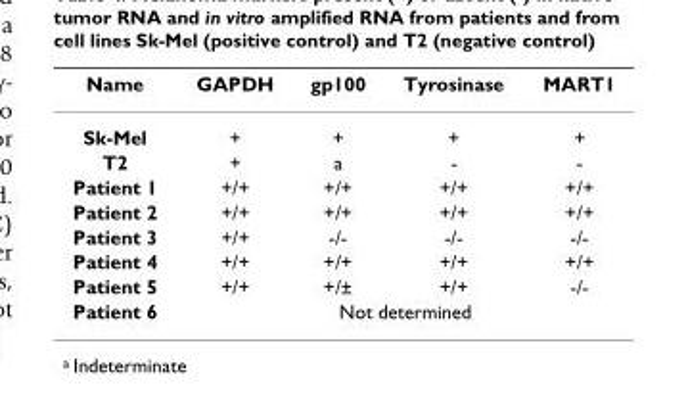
<table><thead><tr><td>Name</td><td>GAPDH</td><td>gp100</td><td>Tyrosinase</td><td>MART1</td></tr></thead><tbody><tr><td>Sk-Mel</td><td>+</td><td>+</td><td>+</td><td>+</td></tr><tr><td>T2</td><td>+</td><td>a</td><td>-</td><td>-</td></tr><tr><td>Patient 1</td><td>+/+</td><td>+/+</td><td>+/+</td><td>+/+</td></tr><tr><td>Patient 2</td><td>+/+</td><td>+/+</td><td>+/+</td><td>+/+</td></tr><tr><td>Patient 3</td><td>+/+</td><td>-/-</td><td>-/-</td><td>-/-</td></tr><tr><td>Patient 4</td><td>+/+</td><td>+/+</td><td>+/+</td><td>+/+</td></tr><tr><td>Patient 5</td><td>+/+</td><td>+/±</td><td>+/+</td><td>-/-</td></tr><tr><td>Patient 6</td><td colspan="4">Not determined</td></tr></tbody></table>